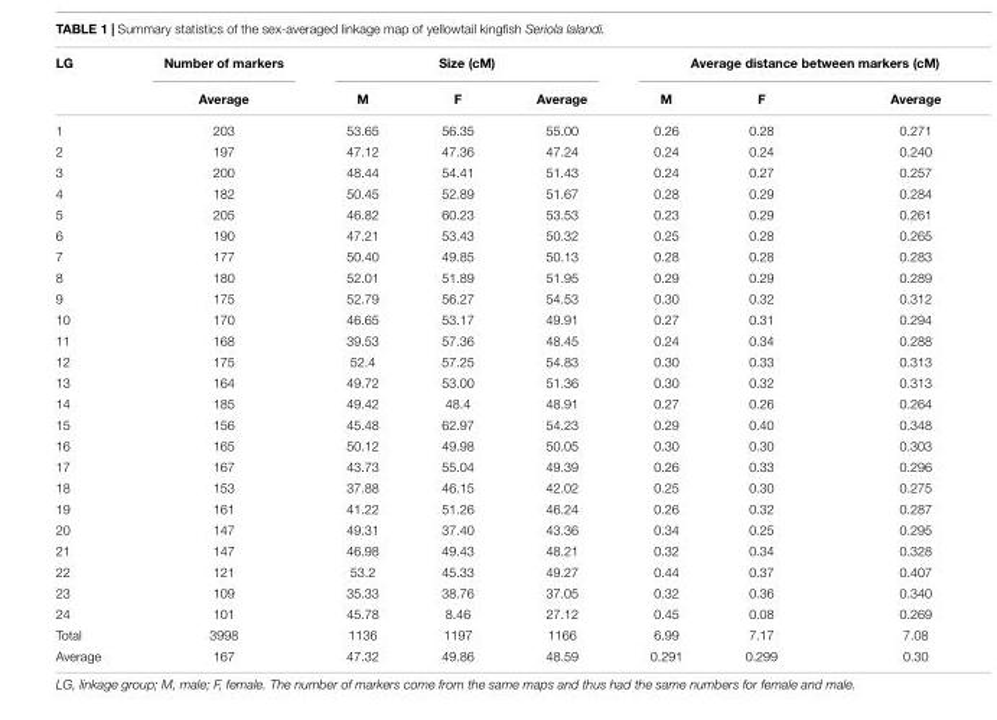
<table><thead><tr><td rowspan="2">LG</td><td rowspan="2">Number of markers Average</td><td colspan="3">Size (cM)</td><td colspan="3">Average distance between markers (cM)</td></tr><tr><td>M</td><td>F</td><td>Average</td><td>M</td><td>F</td><td>Average</td></tr></thead><tbody><tr><td>1</td><td>203</td><td>53.65</td><td>56.35</td><td>55.00</td><td>0.26</td><td>0.28</td><td>0.271</td></tr><tr><td>2</td><td>197</td><td>47.12</td><td>47.36</td><td>47.24</td><td>0.24</td><td>0.24</td><td>0.240</td></tr><tr><td>3</td><td>200</td><td>48.44</td><td>54.41</td><td>51.43</td><td>0.24</td><td>0.27</td><td>0.257</td></tr><tr><td>4</td><td>182</td><td>50.45</td><td>52.89</td><td>51.67</td><td>0.28</td><td>0.29</td><td>0.284</td></tr><tr><td>5</td><td>205</td><td>46.82</td><td>60.23</td><td>53.53</td><td>0.23</td><td>0.29</td><td>0.261</td></tr><tr><td>6</td><td>190</td><td>47.21</td><td>53.43</td><td>50.32</td><td>0.25</td><td>0.28</td><td>0.265</td></tr><tr><td>7</td><td>177</td><td>50.40</td><td>49.85</td><td>50.13</td><td>0.28</td><td>0.28</td><td>0.283</td></tr><tr><td>8</td><td>180</td><td>52.01</td><td>51.89</td><td>51.95</td><td>0.29</td><td>0.29</td><td>0.289</td></tr><tr><td>9</td><td>175</td><td>52.79</td><td>56.27</td><td>54.53</td><td>0.30</td><td>0.32</td><td>0.312</td></tr><tr><td>10</td><td>170</td><td>46.65</td><td>53.17</td><td>49.91</td><td>0.27</td><td>0.31</td><td>0.294</td></tr><tr><td>11</td><td>168</td><td>39.53</td><td>57.36</td><td>48.45</td><td>0.24</td><td>0.34</td><td>0.288</td></tr><tr><td>12</td><td>175</td><td>52.4</td><td>57.25</td><td>54.83</td><td>0.30</td><td>0.33</td><td>0.313</td></tr><tr><td>13</td><td>164</td><td>49.72</td><td>53.00</td><td>51.36</td><td>0.30</td><td>0.32</td><td>0.313</td></tr><tr><td>14</td><td>185</td><td>49.42</td><td>48.4</td><td>48.91</td><td>0.27</td><td>0.26</td><td>0.264</td></tr><tr><td>15</td><td>156</td><td>45.48</td><td>62.97</td><td>54.23</td><td>0.29</td><td>0.40</td><td>0.348</td></tr><tr><td>16</td><td>165</td><td>50.12</td><td>49.98</td><td>50.05</td><td>0.30</td><td>0.30</td><td>0.303</td></tr><tr><td>17</td><td>167</td><td>43.73</td><td>55.04</td><td>49.39</td><td>0.26</td><td>0.33</td><td>0.296</td></tr><tr><td>18</td><td>153</td><td>37.88</td><td>46.15</td><td>42.02</td><td>0.25</td><td>0.30</td><td>0.275</td></tr><tr><td>19</td><td>161</td><td>41.22</td><td>51.26</td><td>46.24</td><td>0.26</td><td>0.32</td><td>0.287</td></tr><tr><td>20</td><td>147</td><td>49.31</td><td>37.40</td><td>43.36</td><td>0.34</td><td>0.25</td><td>0.295</td></tr><tr><td>21</td><td>147</td><td>46.98</td><td>49.43</td><td>48.21</td><td>0.32</td><td>0.34</td><td>0.328</td></tr><tr><td>22</td><td>121</td><td>53.2</td><td>45.33</td><td>49.27</td><td>0.44</td><td>0.37</td><td>0.407</td></tr><tr><td>23</td><td>109</td><td>35.33</td><td>38.76</td><td>37.05</td><td>0.32</td><td>0.36</td><td>0.340</td></tr><tr><td>24</td><td>101</td><td>45.78</td><td>8.46</td><td>27.12</td><td>0.45</td><td>0.08</td><td>0.269</td></tr><tr><td>Total</td><td>3998</td><td>1136</td><td>1197</td><td>1166</td><td>6.99</td><td>7.17</td><td>7.08</td></tr><tr><td>Average</td><td>167</td><td>47.32</td><td>49.86</td><td>48.59</td><td>0.291</td><td>0.299</td><td>0.30</td></tr></tbody></table>